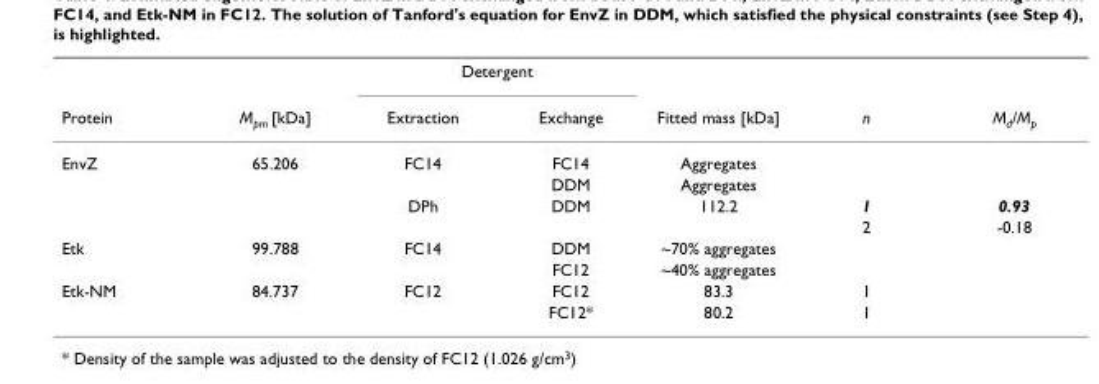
<table><thead><tr><td rowspan="2">Protein</td><td rowspan="2">M<sub>pm</sub> [kDa]</td><td colspan="2">Detergent</td><td rowspan="2">Fitted mass [kDa]</td><td rowspan="2">n</td><td rowspan="2">M<sub>d</sub>/M<sub>p</sub></td></tr><tr><td>Extraction</td><td>Exchange</td></tr></thead><tbody><tr><td rowspan="4">EnvZ</td><td>65.206</td><td>FC14</td><td>FC14</td><td>Aggregates</td><td></td><td></td></tr><tr><td></td><td></td><td>DDM</td><td>Aggregates</td><td></td><td></td></tr><tr><td></td><td>DPh</td><td>DDM</td><td>112.2</td><td>1</td><td>0.93</td></tr><tr><td></td><td></td><td></td><td></td><td>2</td><td>-0.18</td></tr><tr><td rowspan="2">Etk</td><td>99.788</td><td>FC14</td><td>DDM</td><td>~70% aggregates</td><td></td><td></td></tr><tr><td></td><td></td><td>FC12</td><td>~40% aggregates</td><td></td><td></td></tr><tr><td rowspan="2">Etk-NM</td><td>84.737</td><td>FC12</td><td>FC12</td><td>83.3</td><td>1</td><td></td></tr><tr><td></td><td></td><td>FC12*</td><td>80.2</td><td>1</td><td></td></tr></tbody></table>